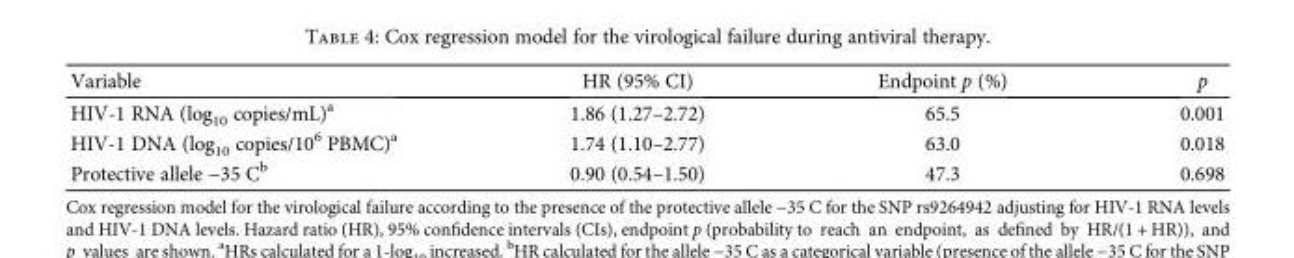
<table><thead><tr><td>Variable</td><td>HR (95% CI)</td><td>Endpoint p (%)</td><td>p</td></tr></thead><tbody><tr><td>HIV-1 RNA (log<sub>10</sub> copies/mL)<sup>a</sup></td><td>1.86 (1.27–2.72)</td><td>65.5</td><td>0.001</td></tr><tr><td>HIV-1 DNA (log<sub>10</sub> copies/10<sup>6</sup> PBMC)<sup>a</sup></td><td>1.74 (1.10–2.77)</td><td>63.0</td><td>0.018</td></tr><tr><td>Protective allele −35 C<sup>b</sup></td><td>0.90 (0.54–1.50)</td><td>47.3</td><td>0.698</td></tr></tbody></table>